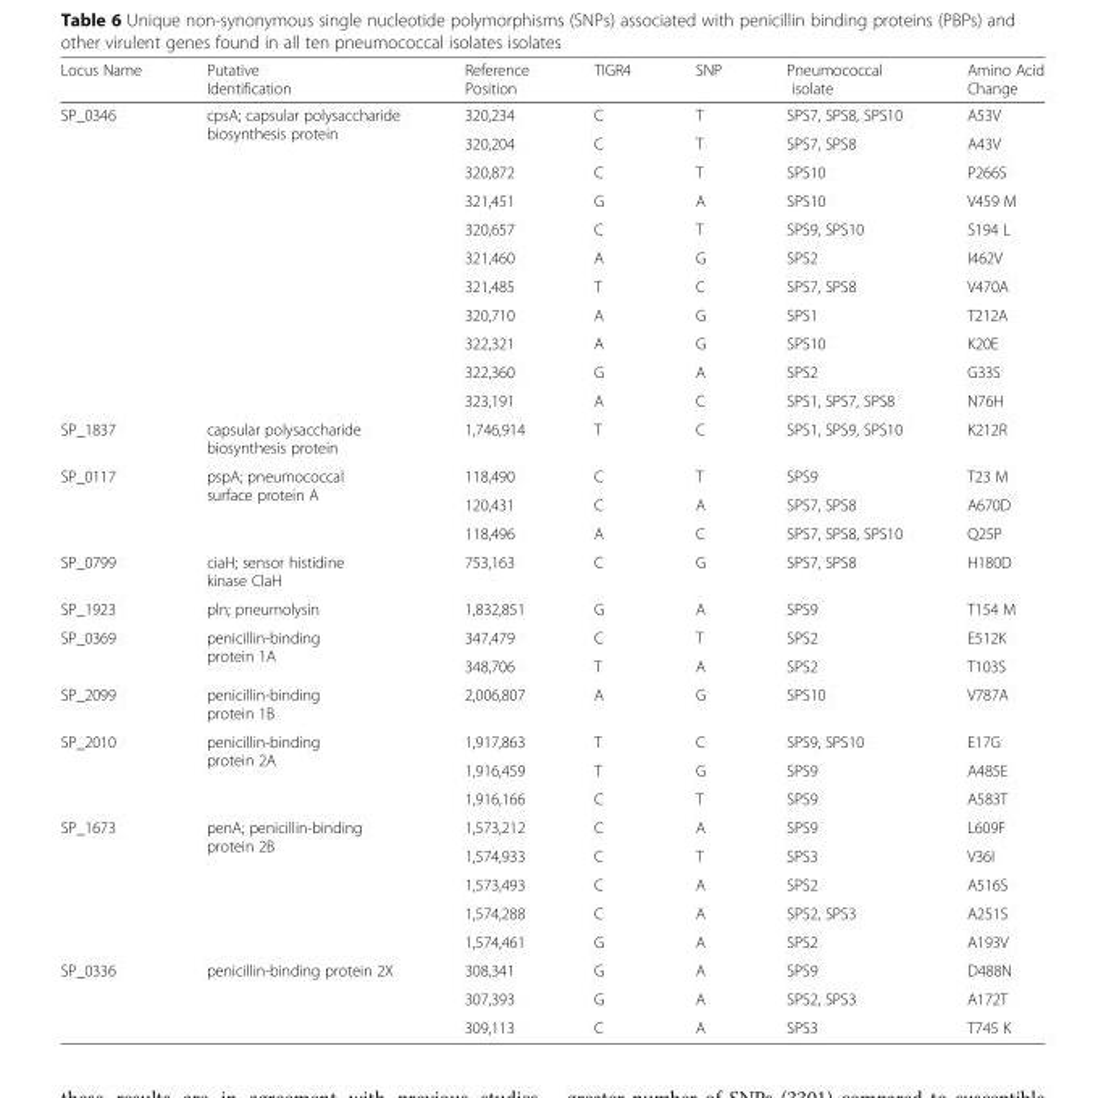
<table><thead><tr><td>Locus Name</td><td>Putative Identification</td><td>Reference Position</td><td>TIGR4</td><td>SNP</td><td>Pneumococcal isolate</td><td>Amino Acid Change</td></tr></thead><tbody><tr><td rowspan="11">SP_0346</td><td rowspan="11">cpsA; capsular polysaccharide biosynthesis protein</td><td>320,234</td><td>C</td><td>T</td><td>SPS7, SPS8, SPS10</td><td>A53V</td></tr><tr><td>320,204</td><td>C</td><td>T</td><td>SPS7, SPS8</td><td>A43V</td></tr><tr><td>320,872</td><td>C</td><td>T</td><td>SPS10</td><td>P266S</td></tr><tr><td>321,451</td><td>G</td><td>A</td><td>SPS10</td><td>V459 M</td></tr><tr><td>320,657</td><td>C</td><td>T</td><td>SPS9, SPS10</td><td>S194 L</td></tr><tr><td>321,460</td><td>A</td><td>G</td><td>SPS2</td><td>I462V</td></tr><tr><td>321,485</td><td>T</td><td>C</td><td>SPS7, SPS8</td><td>V470A</td></tr><tr><td>320,710</td><td>A</td><td>G</td><td>SPS1</td><td>T212A</td></tr><tr><td>322,321</td><td>A</td><td>G</td><td>SPS10</td><td>K20E</td></tr><tr><td>322,360</td><td>G</td><td>A</td><td>SPS2</td><td>G33S</td></tr><tr><td>323,191</td><td>A</td><td>C</td><td>SPS1, SPS7, SPS8</td><td>N76H</td></tr><tr><td>SP_1837</td><td>capsular polysaccharide biosynthesis protein</td><td>1,746,914</td><td>T</td><td>C</td><td>SPS1, SPS9, SPS10</td><td>K212R</td></tr><tr><td rowspan="3">SP_0117</td><td rowspan="3">pspA; pneumococcal surface protein A</td><td>118,490</td><td>C</td><td>T</td><td>SPS9</td><td>T23 M</td></tr><tr><td>120,431</td><td>C</td><td>A</td><td>SPS7, SPS8</td><td>A670D</td></tr><tr><td>118,496</td><td>A</td><td>C</td><td>SPS7, SPS8, SPS10</td><td>Q25P</td></tr><tr><td>SP_0799</td><td>ciaH; sensor histidine kinase ClaH</td><td>753,163</td><td>C</td><td>G</td><td>SPS7, SPS8</td><td>H180D</td></tr><tr><td>SP_1923</td><td>pln; pneumolysin</td><td>1,832,851</td><td>G</td><td>A</td><td>SPS9</td><td>T154 M</td></tr><tr><td rowspan="2">SP_0369</td><td rowspan="2">penicillin-binding protein 1A</td><td>347,479</td><td>C</td><td>T</td><td>SPS2</td><td>E512K</td></tr><tr><td>348,706</td><td>T</td><td>A</td><td>SPS2</td><td>T103S</td></tr><tr><td>SP_2099</td><td>penicillin-binding protein 1B</td><td>2,006,807</td><td>A</td><td>G</td><td>SPS10</td><td>V787A</td></tr><tr><td rowspan="3">SP_2010</td><td rowspan="3">penicillin-binding protein 2A</td><td>1,917,863</td><td>T</td><td>C</td><td>SPS9, SPS10</td><td>E17G</td></tr><tr><td>1,916,459</td><td>T</td><td>G</td><td>SPS9</td><td>A485E</td></tr><tr><td>1,916,166</td><td>C</td><td>T</td><td>SPS9</td><td>A583T</td></tr><tr><td rowspan="5">SP_1673</td><td rowspan="5">penA; penicillin-binding protein 2B</td><td>1,573,212</td><td>C</td><td>A</td><td>SPS9</td><td>L609F</td></tr><tr><td>1,574,933</td><td>C</td><td>T</td><td>SPS3</td><td>V36I</td></tr><tr><td>1,573,493</td><td>C</td><td>A</td><td>SPS2</td><td>A516S</td></tr><tr><td>1,574,288</td><td>C</td><td>A</td><td>SPS2, SPS3</td><td>A251S</td></tr><tr><td>1,574,461</td><td>G</td><td>A</td><td>SPS2</td><td>A193V</td></tr><tr><td rowspan="3">SP_0336</td><td rowspan="3">penicillin-binding protein 2X</td><td>308,341</td><td>G</td><td>A</td><td>SPS9</td><td>D488N</td></tr><tr><td>307,393</td><td>G</td><td>A</td><td>SPS2, SPS3</td><td>A172T</td></tr><tr><td>309,113</td><td>C</td><td>A</td><td>SPS3</td><td>T745 K</td></tr></tbody></table>